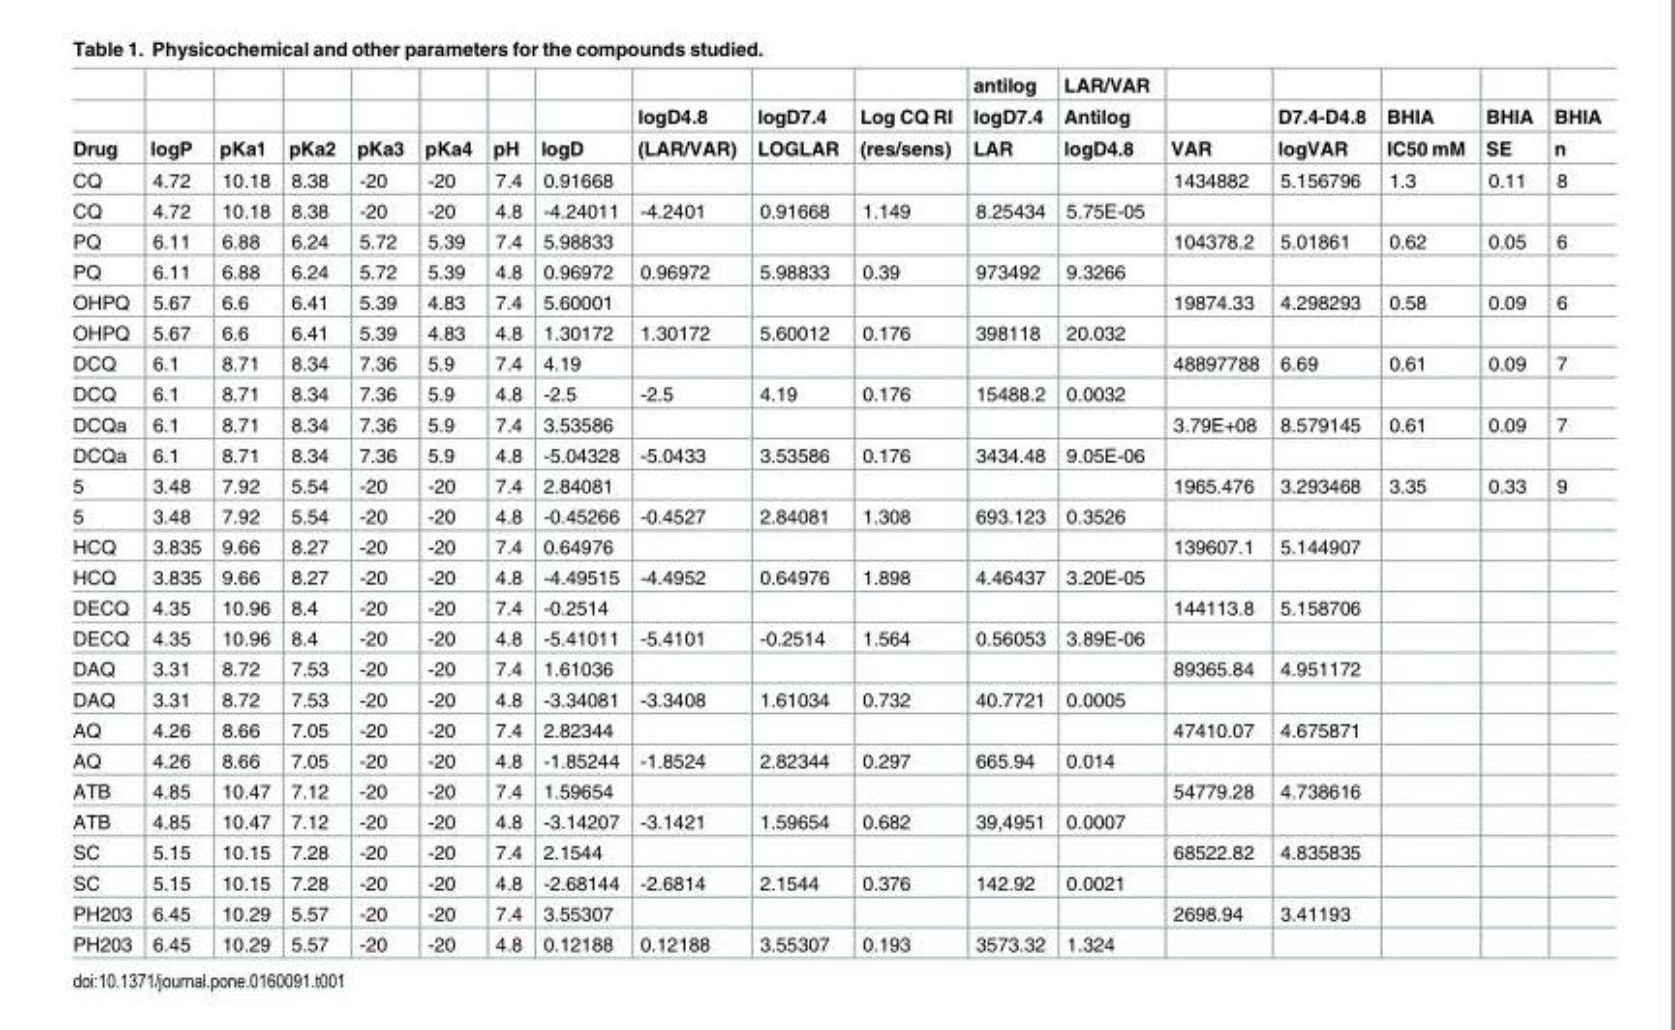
<table><thead><tr><td rowspan="3">Drug</td><td rowspan="3">logP</td><td rowspan="3">pKa1</td><td rowspan="3">pKa2</td><td rowspan="3">pKa3</td><td rowspan="3">pKa4</td><td rowspan="3">pH</td><td rowspan="3">logD</td><td rowspan="3">logD4.8 (LAR/VAR)</td><td rowspan="3">logD7.4 LOGLAR</td><td rowspan="3">Log CQ RI (res/sens)</td><td rowspan="3">antilog logD7.4 LAR</td><td rowspan="3">LAR/VAR Antilog logD4.8</td><td rowspan="3">VAR</td><td rowspan="3">D7.4-D4.8 logVAR</td><td rowspan="3">BHIA IC50 mM</td><td rowspan="3">BHIA SE</td><td rowspan="3">BHIA n</td></tr><tr></tr><tr></tr></thead><tbody><tr><td>CQ</td><td>4.72</td><td>10.18</td><td>8.38</td><td>-20</td><td>-20</td><td>7.4</td><td>0.91668</td><td></td><td></td><td></td><td></td><td></td><td>1434882</td><td>5.156796</td><td>1.3</td><td>0.11</td><td>8</td></tr><tr><td>CQ</td><td>4.72</td><td>10.18</td><td>8.38</td><td>-20</td><td>-20</td><td>4.8</td><td>-4.24011</td><td>-4.2401</td><td>0.91668</td><td>1.149</td><td>8.25434</td><td>5.75E-05</td><td></td><td></td><td></td><td></td><td></td></tr><tr><td>PQ</td><td>6.11</td><td>6.88</td><td>6.24</td><td>5.72</td><td>5.39</td><td>7.4</td><td>5.98833</td><td></td><td></td><td></td><td></td><td></td><td>104378.2</td><td>5.01861</td><td>0.62</td><td>0.05</td><td>6</td></tr><tr><td>PQ</td><td>6.11</td><td>6.88</td><td>6.24</td><td>5.72</td><td>5.39</td><td>4.8</td><td>0.96972</td><td>0.96972</td><td>5.98833</td><td>0.39</td><td>973492</td><td>9.3266</td><td></td><td></td><td></td><td></td><td></td></tr><tr><td>OHPQ</td><td>5.67</td><td>6.6</td><td>6.41</td><td>5.39</td><td>4.83</td><td>7.4</td><td>5.60001</td><td></td><td></td><td></td><td></td><td></td><td>19874.33</td><td>4.298293</td><td>0.58</td><td>0.09</td><td>6</td></tr><tr><td>OHPQ</td><td>5.67</td><td>6.6</td><td>6.41</td><td>5.39</td><td>4.83</td><td>4.8</td><td>1.30172</td><td>1.30172</td><td>5.60012</td><td>0.176</td><td>398118</td><td>20.032</td><td></td><td></td><td></td><td></td><td></td></tr><tr><td>DCQ</td><td>6.1</td><td>8.71</td><td>8.34</td><td>7.36</td><td>5.9</td><td>7.4</td><td>4.19</td><td></td><td></td><td></td><td></td><td></td><td>48897788</td><td>6.69</td><td>0.61</td><td>0.09</td><td>7</td></tr><tr><td>DCQ</td><td>6.1</td><td>8.71</td><td>8.34</td><td>7.36</td><td>5.9</td><td>4.8</td><td>-2.5</td><td>-2.5</td><td>4.19</td><td>0.176</td><td>15488.2</td><td>0.0032</td><td></td><td></td><td></td><td></td><td></td></tr><tr><td>DCQa</td><td>6.1</td><td>8.71</td><td>8.34</td><td>7.36</td><td>5.9</td><td>7.4</td><td>3.53586</td><td></td><td></td><td></td><td></td><td></td><td>3.79E+08</td><td>8.579145</td><td>0.61</td><td>0.09</td><td>7</td></tr><tr><td>DCQa</td><td>6.1</td><td>8.71</td><td>8.34</td><td>7.36</td><td>5.9</td><td>4.8</td><td>-5.04328</td><td>-5.0433</td><td>3.53586</td><td>0.176</td><td>3434.48</td><td>9.05E-06</td><td></td><td></td><td></td><td></td><td></td></tr><tr><td>5</td><td>3.48</td><td>7.92</td><td>5.54</td><td>-20</td><td>-20</td><td>7.4</td><td>2.84081</td><td></td><td></td><td></td><td></td><td></td><td>1965.476</td><td>3.293468</td><td>3.35</td><td>0.33</td><td>9</td></tr><tr><td>5</td><td>3.48</td><td>7.92</td><td>5.54</td><td>-20</td><td>-20</td><td>4.8</td><td>-0.45266</td><td>-0.4527</td><td>2.84081</td><td>1.308</td><td>693.123</td><td>0.3526</td><td></td><td></td><td></td><td></td><td></td></tr><tr><td>HCQ</td><td>3.835</td><td>9.66</td><td>8.27</td><td>-20</td><td>-20</td><td>7.4</td><td>0.64976</td><td></td><td></td><td></td><td></td><td></td><td>139607.1</td><td>5.144907</td><td></td><td></td><td></td></tr><tr><td>HCQ</td><td>3.835</td><td>9.66</td><td>8.27</td><td>-20</td><td>-20</td><td>4.8</td><td>-4.49515</td><td>-4.4952</td><td>0.64976</td><td>1.898</td><td>4.46437</td><td>3.20E-05</td><td></td><td></td><td></td><td></td><td></td></tr><tr><td>DECQ</td><td>4.35</td><td>10.96</td><td>8.4</td><td>-20</td><td>-20</td><td>7.4</td><td>-0.2514</td><td></td><td></td><td></td><td></td><td></td><td>144113.8</td><td>5.158706</td><td></td><td></td><td></td></tr><tr><td>DECQ</td><td>4.35</td><td>10.96</td><td>8.4</td><td>-20</td><td>-20</td><td>4.8</td><td>-5.41011</td><td>-5.4101</td><td>-0.2514</td><td>1.564</td><td>0.56053</td><td>3.89E-06</td><td></td><td></td><td></td><td></td><td></td></tr><tr><td>DAQ</td><td>3.31</td><td>8.72</td><td>7.53</td><td>-20</td><td>-20</td><td>7.4</td><td>1.61036</td><td></td><td></td><td></td><td></td><td></td><td>89365.84</td><td>4.951172</td><td></td><td></td><td></td></tr><tr><td>DAQ</td><td>3.31</td><td>8.72</td><td>7.53</td><td>-20</td><td>-20</td><td>4.8</td><td>-3.34081</td><td>-3.3408</td><td>1.61034</td><td>0.732</td><td>40.7721</td><td>0.0005</td><td></td><td></td><td></td><td></td><td></td></tr><tr><td>AQ</td><td>4.26</td><td>8.66</td><td>7.05</td><td>-20</td><td>-20</td><td>7.4</td><td>2.82344</td><td></td><td></td><td></td><td></td><td></td><td>47410.07</td><td>4.675871</td><td></td><td></td><td></td></tr><tr><td>AQ</td><td>4.26</td><td>8.66</td><td>7.05</td><td>-20</td><td>-20</td><td>4.8</td><td>-1.85244</td><td>-1.8524</td><td>2.82344</td><td>0.297</td><td>665.94</td><td>0.014</td><td></td><td></td><td></td><td></td><td></td></tr><tr><td>ATB</td><td>4.85</td><td>10.47</td><td>7.12</td><td>-20</td><td>-20</td><td>7.4</td><td>1.59654</td><td></td><td></td><td></td><td></td><td></td><td>54779.28</td><td>4.738616</td><td></td><td></td><td></td></tr><tr><td>ATB</td><td>4.85</td><td>10.47</td><td>7.12</td><td>-20</td><td>-20</td><td>4.8</td><td>-3.14207</td><td>-3.1421</td><td>1.59654</td><td>0.682</td><td>39,4951</td><td>0.0007</td><td></td><td></td><td></td><td></td><td></td></tr><tr><td>SC</td><td>5.15</td><td>10.15</td><td>7.28</td><td>-20</td><td>-20</td><td>7.4</td><td>2.1544</td><td></td><td></td><td></td><td></td><td></td><td>68522.82</td><td>4.835835</td><td></td><td></td><td></td></tr><tr><td>SC</td><td>5.15</td><td>10.15</td><td>7.28</td><td>-20</td><td>-20</td><td>4.8</td><td>-2.68144</td><td>-2.6814</td><td>2.1544</td><td>0.376</td><td>142.92</td><td>0.0021</td><td></td><td></td><td></td><td></td><td></td></tr><tr><td>PH203</td><td>6.45</td><td>10.29</td><td>5.57</td><td>-20</td><td>-20</td><td>7.4</td><td>3.55307</td><td></td><td></td><td></td><td></td><td></td><td>2698.94</td><td>3.41193</td><td></td><td></td><td></td></tr><tr><td>PH203</td><td>6.45</td><td>10.29</td><td>5.57</td><td>-20</td><td>-20</td><td>4.8</td><td>0.12188</td><td>0.12188</td><td>3.55307</td><td>0.193</td><td>3573.32</td><td>1.324</td><td></td><td></td><td></td><td></td><td></td></tr></tbody></table>